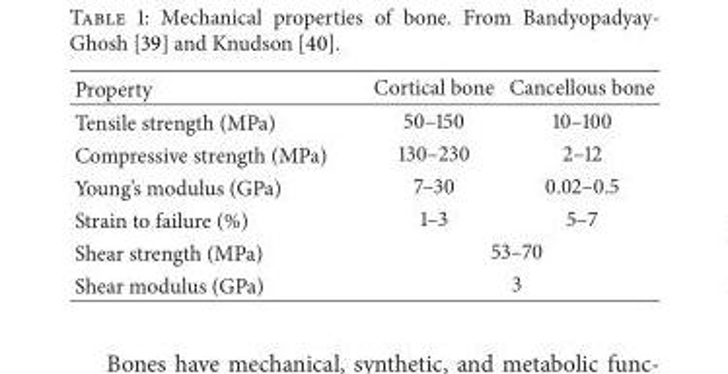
<table><thead><tr><td>Property</td><td>Cortical bone</td><td>Cancellous bone</td></tr></thead><tbody><tr><td>Tensile strength (MPa)</td><td>50–150</td><td>10–100</td></tr><tr><td>Compressive strength (MPa)</td><td>130–230</td><td>2–12</td></tr><tr><td>Young’s modulus (GPa)</td><td>7–30</td><td>0.02–0.5</td></tr><tr><td>Strain to failure (%)</td><td>1–3</td><td>5–7</td></tr><tr><td>Shear strength (MPa)</td><td colspan="2">53–70</td></tr><tr><td>Shear modulus (GPa)</td><td colspan="2">3</td></tr></tbody></table>